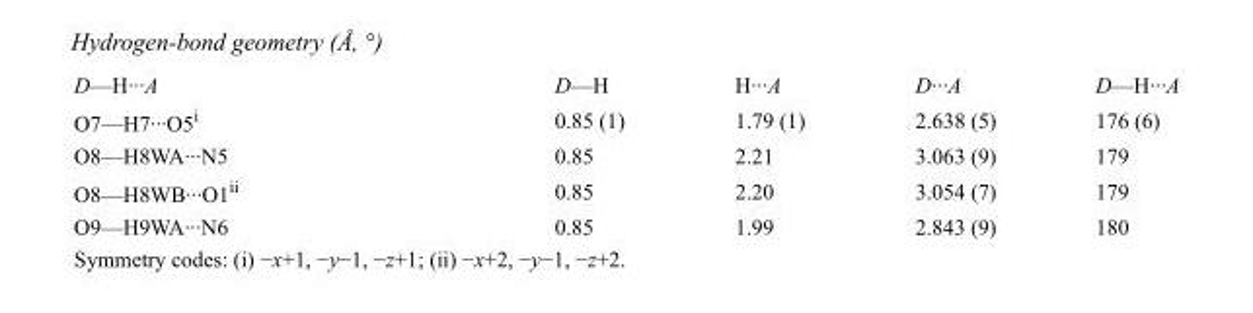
<table><tbody><tr><td>D—H···A</td><td>D—H</td><td>H···A</td><td>D···A</td><td>D—H···A</td></tr><tr><td>O7—H7···O5<sup>i</sup></td><td>0.85 (1)</td><td>1.79 (1)</td><td>2.638 (5)</td><td>176 (6)</td></tr><tr><td>O8—H8WA···N5</td><td>0.85</td><td>2.21</td><td>3.063 (9)</td><td>179</td></tr><tr><td>O8—H8WB···O1<sup>ii</sup></td><td>0.85</td><td>2.20</td><td>3.054 (7)</td><td>179</td></tr><tr><td>O9—H9WA···N6</td><td>0.85</td><td>1.99</td><td>2.843 (9)</td><td>180</td></tr></tbody></table>